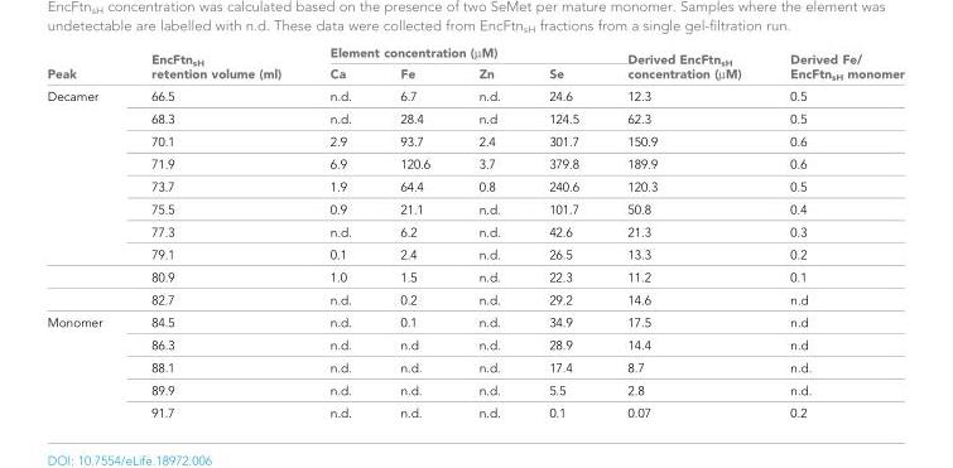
<table><thead><tr><td rowspan="2">Peak</td><td rowspan="2">EncFtn<sub>sH</sub> retention volume (ml)</td><td colspan="4">Element concentration (µM)</td><td rowspan="2">Derived EncFtn<sub>sH</sub> concentration (µM)</td><td rowspan="2">Derived Fe/ EncFtn<sub>sH</sub> monomer</td></tr><tr><td>Ca</td><td>Fe</td><td>Zn</td><td>Se</td></tr></thead><tbody><tr><td rowspan="10">Decamer</td><td>66.5</td><td>n.d.</td><td>6.7</td><td>n.d.</td><td>24.6</td><td>12.3</td><td>0.5</td></tr><tr><td>68.3</td><td>n.d.</td><td>28.4</td><td>n.d</td><td>124.5</td><td>62.3</td><td>0.5</td></tr><tr><td>70.1</td><td>2.9</td><td>93.7</td><td>2.4</td><td>301.7</td><td>150.9</td><td>0.6</td></tr><tr><td>71.9</td><td>6.9</td><td>120.6</td><td>3.7</td><td>379.8</td><td>189.9</td><td>0.6</td></tr><tr><td>73.7</td><td>1.9</td><td>64.4</td><td>0.8</td><td>240.6</td><td>120.3</td><td>0.5</td></tr><tr><td>75.5</td><td>0.9</td><td>21.1</td><td>n.d.</td><td>101.7</td><td>50.8</td><td>0.4</td></tr><tr><td>77.3</td><td>n.d.</td><td>6.2</td><td>n.d.</td><td>42.6</td><td>21.3</td><td>0.3</td></tr><tr><td>79.1</td><td>0.1</td><td>2.4</td><td>n.d.</td><td>26.5</td><td>13.3</td><td>0.2</td></tr><tr><td>80.9</td><td>1.0</td><td>1.5</td><td>n.d.</td><td>22.3</td><td>11.2</td><td>0.1</td></tr><tr><td>82.7</td><td>n.d.</td><td>0.2</td><td>n.d.</td><td>29.2</td><td>14.6</td><td>n.d</td></tr><tr><td rowspan="5">Monomer</td><td>84.5</td><td>n.d.</td><td>0.1</td><td>n.d.</td><td>34.9</td><td>17.5</td><td>n.d</td></tr><tr><td>86.3</td><td>n.d.</td><td>n.d</td><td>n.d.</td><td>28.9</td><td>14.4</td><td>n.d</td></tr><tr><td>88.1</td><td>n.d.</td><td>n.d.</td><td>n.d.</td><td>17.4</td><td>8.7</td><td>n.d.</td></tr><tr><td>89.9</td><td>n.d.</td><td>n.d.</td><td>n.d.</td><td>5.5</td><td>2.8</td><td>n.d.</td></tr><tr><td>91.7</td><td>n.d.</td><td>n.d.</td><td>n.d.</td><td>0.1</td><td>0.07</td><td>0.2</td></tr></tbody></table>